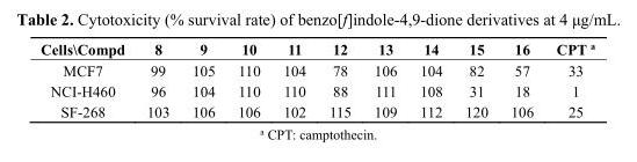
<table><thead><tr><td>Cells\Compd</td><td>8</td><td>9</td><td>10</td><td>11</td><td>12</td><td>13</td><td>14</td><td>15</td><td>16</td><td>CPT <sup>a</sup></td></tr></thead><tbody><tr><td>MCF7</td><td>99</td><td>105</td><td>110</td><td>104</td><td>78</td><td>106</td><td>104</td><td>82</td><td>57</td><td>33</td></tr><tr><td>NCI-H460</td><td>96</td><td>104</td><td>110</td><td>110</td><td>88</td><td>111</td><td>108</td><td>31</td><td>18</td><td>1</td></tr><tr><td>SF-268</td><td>103</td><td>106</td><td>106</td><td>102</td><td>115</td><td>109</td><td>112</td><td>120</td><td>106</td><td>25</td></tr></tbody></table>